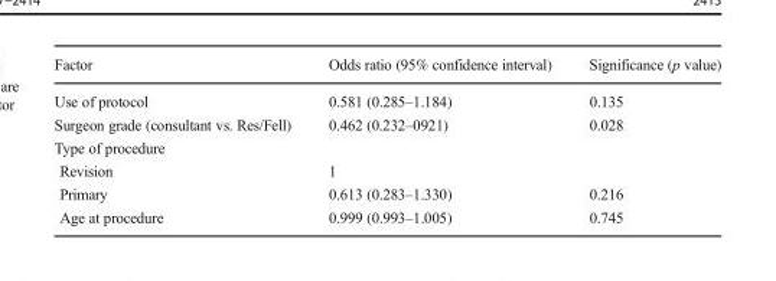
<table><thead><tr><td>Factor</td><td>Odds ratio (95% confidence interval)</td><td>Significance (p value)</td></tr></thead><tbody><tr><td>Use of protocol</td><td>0.581 (0.285–1.184)</td><td>0.135</td></tr><tr><td>Surgeon grade (consultant vs. Res/Fell)</td><td>0.462 (0.232–0921)</td><td>0.028</td></tr><tr><td colspan="3">Type of procedure</td></tr><tr><td>Revision</td><td>1</td><td></td></tr><tr><td>Primary</td><td>0.613 (0.283–1.330)</td><td>0.216</td></tr><tr><td>Age at procedure</td><td>0.999 (0.993–1.005)</td><td>0.745</td></tr></tbody></table>